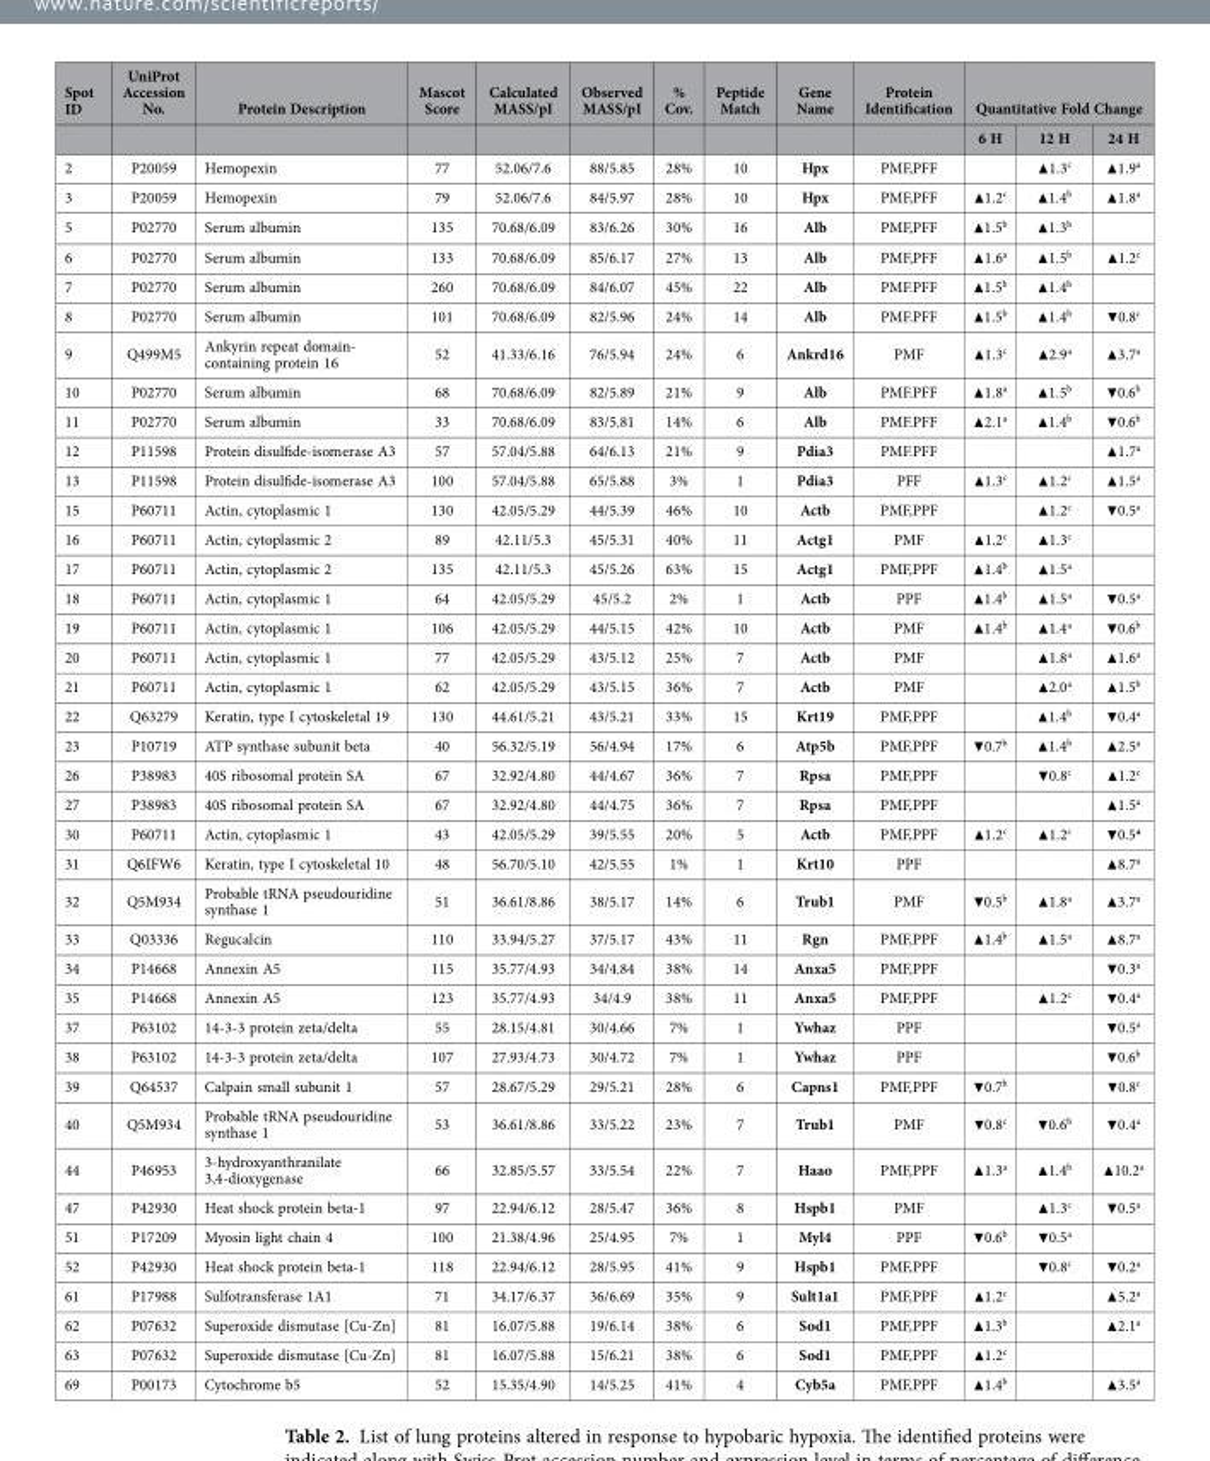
<table><thead><tr><td rowspan="2">Spot ID</td><td rowspan="2">UniProt Accession No.</td><td rowspan="2">Protein Description</td><td rowspan="2">Mascot Score</td><td rowspan="2">Calculated MASS/pI</td><td rowspan="2">Observed MASS/pI</td><td rowspan="2">% Cov.</td><td rowspan="2">Peptide Match</td><td rowspan="2">Gene Name</td><td rowspan="2">Protein Identification</td><td colspan="3">Quantitative Fold Change</td></tr><tr><td>6 H</td><td>12 H</td><td>24 H</td></tr></thead><tbody><tr><td>2</td><td>P20059</td><td>Hemopexin</td><td>77</td><td>52.06/7.6</td><td>88/5.85</td><td>28%</td><td>10</td><td>Hpx</td><td>PMF,PFF</td><td></td><td>▲1.3<sup>c</sup></td><td>▲1.9<sup>a</sup></td></tr><tr><td>3</td><td>P20059</td><td>Hemopexin</td><td>79</td><td>52.06/7.6</td><td>84/5.97</td><td>28%</td><td>10</td><td>Hpx</td><td>PMF,PFF</td><td>▲1.2<sup>c</sup></td><td>▲1.4<sup>b</sup></td><td>▲1.8<sup>a</sup></td></tr><tr><td>5</td><td>P02770</td><td>Serum albumin</td><td>135</td><td>70.68/6.09</td><td>83/6.26</td><td>30%</td><td>16</td><td>Alb</td><td>PMF,PFF</td><td>▲1.5<sup>b</sup></td><td>▲1.3<sup>b</sup></td><td></td></tr><tr><td>6</td><td>P02770</td><td>Serum albumin</td><td>133</td><td>70.68/6.09</td><td>85/6.17</td><td>27%</td><td>13</td><td>Alb</td><td>PMF,PFF</td><td>▲1.6<sup>a</sup></td><td>▲1.5<sup>b</sup></td><td>▲1.2<sup>c</sup></td></tr><tr><td>7</td><td>P02770</td><td>Serum albumin</td><td>260</td><td>70.68/6.09</td><td>84/6.07</td><td>45%</td><td>22</td><td>Alb</td><td>PMF.PFF</td><td>▲1.5<sup>b</sup></td><td>▲1.4<sup>b</sup></td><td></td></tr><tr><td>8</td><td>P02770</td><td>Serum albumin</td><td>101</td><td>70.68/6.09</td><td>82/5.96</td><td>24%</td><td>14</td><td>Alb</td><td>PMF.PFF</td><td>▲1.5<sup>b</sup></td><td>▲1.4<sup>b</sup></td><td>▼0.8<sup>c</sup></td></tr><tr><td>9</td><td>Q499M5</td><td>Ankyrin repeat domain- containing protein 16</td><td>52</td><td>41.33/6.16</td><td>76/5.94</td><td>24%</td><td>6</td><td>Ankrd16</td><td>PMF</td><td>▲1.3<sup>c</sup></td><td>▲2.9<sup>a</sup></td><td>▲3.7<sup>a</sup></td></tr><tr><td>10</td><td>P02770</td><td>Serum albumin</td><td>68</td><td>70.68/6.09</td><td>82/5.89</td><td>21%</td><td>9</td><td>Alb</td><td>PMF.PFF</td><td>▲1.8<sup>a</sup></td><td>▲1.5<sup>b</sup></td><td>▼0.6<sup>b</sup></td></tr><tr><td>11</td><td>P02770</td><td>Serum albumin</td><td>33</td><td>70.68/6.09</td><td>83/5.81</td><td>14%</td><td>6</td><td>Alb</td><td>PMF.PFF</td><td>▲2.1<sup>a</sup></td><td>▲1.4<sup>b</sup></td><td>▼0.6<sup>b</sup></td></tr><tr><td>12</td><td>P11598</td><td>Protein disulfide-isomerase A3</td><td>57</td><td>57.04/5.88</td><td>64/6.13</td><td>21%</td><td>9</td><td>Pdia3</td><td>PMF.PFF</td><td></td><td></td><td>▲1.7<sup>a</sup></td></tr><tr><td>13</td><td>P11598</td><td>Protein disulfide-isomerase A3</td><td>100</td><td>57.04/5.88</td><td>65/5.88</td><td>3%</td><td>1</td><td>Pdia3</td><td>PFF</td><td>▲1.3<sup>c</sup></td><td>▲1.2<sup>c</sup></td><td>▲1.5<sup>a</sup></td></tr><tr><td>15</td><td>P60711</td><td>Actin, cytoplasmic 1</td><td>130</td><td>42.05/5.29</td><td>44/5.39</td><td>46%</td><td>10</td><td>Actb</td><td>PMF,PPF</td><td></td><td>▲1.2<sup>c</sup></td><td>▼0.5<sup>a</sup></td></tr><tr><td>16</td><td>P60711</td><td>Actin, cytoplasmic 2</td><td>89</td><td>42.11/5.3</td><td>45/5.31</td><td>40%</td><td>11</td><td>Actg1</td><td>PMF</td><td>▲1.2<sup>c</sup></td><td>▲1.3<sup>c</sup></td><td></td></tr><tr><td>17</td><td>P60711</td><td>Actin, cytoplasmic 2</td><td>135</td><td>42.11/5.3</td><td>45/5.26</td><td>63%</td><td>15</td><td>Actg1</td><td>PMF,PPF</td><td>▲1.4<sup>b</sup></td><td>▲1.5<sup>a</sup></td><td></td></tr><tr><td>18</td><td>P60711</td><td>Actin, cytoplasmic 1</td><td>64</td><td>42.05/5.29</td><td>45/5.2</td><td>2%</td><td>1</td><td>Actb</td><td>PPF</td><td>▲1.4<sup>b</sup></td><td>▲1.5<sup>a</sup></td><td>▼0.5<sup>a</sup></td></tr><tr><td>19</td><td>P60711</td><td>Actin, cytoplasmic 1</td><td>106</td><td>42.05/5.29</td><td>44/5.15</td><td>42%</td><td>10</td><td>Actb</td><td>PMF</td><td>▲1.4<sup>b</sup></td><td>▲1.4<sup>a</sup></td><td>▼0.6<sup>b</sup></td></tr><tr><td>20</td><td>P60711</td><td>Actin, cytoplasmic 1</td><td>77</td><td>42.05/5.29</td><td>43/5.12</td><td>25%</td><td>7</td><td>Actb</td><td>PMF</td><td></td><td>▲1.8<sup>a</sup></td><td>▲1.6<sup>a</sup></td></tr><tr><td>21</td><td>P60711</td><td>Actin, cytoplasmic 1</td><td>62</td><td>42.05/5.29</td><td>43/5.15</td><td>36%</td><td>7</td><td>Actb</td><td>PMF</td><td></td><td>▲2.0<sup>a</sup></td><td>▲1.5<sup>b</sup></td></tr><tr><td>22</td><td>Q63279</td><td>Keratin, type I cytoskeletal 19</td><td>130</td><td>44.61/5.21</td><td>43/5.21</td><td>33%</td><td>15</td><td>Krt19</td><td>PMF,PPF</td><td></td><td>▲1.4<sup>b</sup></td><td>▼0.4<sup>a</sup></td></tr><tr><td>23</td><td>P10719</td><td>ATP synthase subunit beta</td><td>40</td><td>56.32/5.19</td><td>56/4.94</td><td>17%</td><td>6</td><td>Atp5b</td><td>PMF,PPF</td><td>▼0.7<sup>b</sup></td><td>▲1.4<sup>b</sup></td><td>▲2.5<sup>a</sup></td></tr><tr><td>26</td><td>P38983</td><td>40S ribosomal protein SA</td><td>67</td><td>32.92/4.80</td><td>44/4.67</td><td>36%</td><td>7</td><td>Rpsa</td><td>PMF,PPF</td><td></td><td>▼0.8<sup>c</sup></td><td>▲1.2<sup>c</sup></td></tr><tr><td>27</td><td>P38983</td><td>40S ribosomal protein SA</td><td>67</td><td>32.92/4.80</td><td>44/4.75</td><td>36%</td><td>7</td><td>Rpsa</td><td>PMF,PPF</td><td></td><td></td><td>▲1.5<sup>a</sup></td></tr><tr><td>30</td><td>P60711</td><td>Actin, cytoplasmic 1</td><td>43</td><td>42.05/5.29</td><td>39/5.55</td><td>20%</td><td>5</td><td>Actb</td><td>PMF,PPF</td><td>▲1.2<sup>c</sup></td><td>▲1.2<sup>c</sup></td><td>▼0.5<sup>a</sup></td></tr><tr><td>31</td><td>Q6IFW6</td><td>Keratin, type I cytoskeletal 10</td><td>48</td><td>56.70/5.10</td><td>42/5.55</td><td>1%</td><td>1</td><td>Krt10</td><td>PPF</td><td></td><td></td><td>▲8.7<sup>a</sup></td></tr><tr><td>32</td><td>Q5M934</td><td>Probable tRNA pseudouridine synthase 1</td><td>51</td><td>36.61/8.86</td><td>38/5.17</td><td>14%</td><td>6</td><td>Trub1</td><td>PMF</td><td>▼0.5<sup>b</sup></td><td>▲1.8<sup>a</sup></td><td>▲3.7<sup>a</sup></td></tr><tr><td>33</td><td>Q03336</td><td>Regucalcin</td><td>110</td><td>33.94/5.27</td><td>37/5.17</td><td>43%</td><td>11</td><td>Rgn</td><td>PMF,PPF</td><td>▲1.4<sup>b</sup></td><td>▲1.5<sup>a</sup></td><td>▲8.7<sup>a</sup></td></tr><tr><td>34</td><td>P14668</td><td>Annexin A5</td><td>115</td><td>35.77/4.93</td><td>34/4.84</td><td>38%</td><td>14</td><td>Anxa5</td><td>PMF,PPF</td><td></td><td></td><td>▼0.3<sup>a</sup></td></tr><tr><td>35</td><td>P14668</td><td>Annexin A5</td><td>123</td><td>35.77/4.93</td><td>34/4.9</td><td>38%</td><td>11</td><td>Anxa5</td><td>PMF,PPF</td><td></td><td>▲1.2<sup>c</sup></td><td>▼0.4<sup>a</sup></td></tr><tr><td>37</td><td>P63102</td><td>14-3-3 protein zeta/delta</td><td>55</td><td>28.15/4.81</td><td>30/4.66</td><td>7%</td><td>1</td><td>Ywhaz</td><td>PPF</td><td></td><td></td><td>▼0.5<sup>a</sup></td></tr><tr><td>38</td><td>P63102</td><td>14-3-3 protein zeta/delta</td><td>107</td><td>27.93/4.73</td><td>30/4.72</td><td>7%</td><td>1</td><td>Ywhaz</td><td>PPF</td><td></td><td></td><td>▼0.6<sup>b</sup></td></tr><tr><td>39</td><td>Q64537</td><td>Calpain small subunit 1</td><td>57</td><td>28.67/5.29</td><td>29/5.21</td><td>28%</td><td>6</td><td>Capns1</td><td>PMF,PPF</td><td>▼0.7<sup>b</sup></td><td></td><td>▼0.8<sup>c</sup></td></tr><tr><td>40</td><td>Q5M934</td><td>Probable tRNA pseudouridine synthase 1</td><td>53</td><td>36.61/8.86</td><td>33/5.22</td><td>23%</td><td>7</td><td>Trub1</td><td>PMF</td><td>▼0.8<sup>c</sup></td><td>▼0.6<sup>b</sup></td><td>▼0.4<sup>a</sup></td></tr><tr><td>44</td><td>P46953</td><td>3-hydroxyanthranilate 3,4-dioxygenase</td><td>66</td><td>32.85/5.57</td><td>33/5.54</td><td>22%</td><td>7</td><td>Haao</td><td>PMF,PPF</td><td>▲1.3<sup>a</sup></td><td>▲1.4<sup>b</sup></td><td>▲10.2<sup>a</sup></td></tr><tr><td>47</td><td>P42930</td><td>Heat shock protein beta-1</td><td>97</td><td>22.94/6.12</td><td>28/5.47</td><td>36%</td><td>8</td><td>Hspb1</td><td>PMF</td><td></td><td>▲1.3<sup>c</sup></td><td>▼0.5<sup>a</sup></td></tr><tr><td>51</td><td>P17209</td><td>Myosin light chain 4</td><td>100</td><td>21.38/4.96</td><td>25/4.95</td><td>7%</td><td>1</td><td>Myl4</td><td>PPF</td><td>▼0.6<sup>b</sup></td><td>▼0.5<sup>a</sup></td><td></td></tr><tr><td>52</td><td>P42930</td><td>Heat shock protein beta-1</td><td>118</td><td>22.94/6.12</td><td>28/5.95</td><td>41%</td><td>9</td><td>Hspb1</td><td>PMF,PPF</td><td></td><td>▼0.8<sup>c</sup></td><td>▼0.2<sup>a</sup></td></tr><tr><td>61</td><td>P17988</td><td>Sulfotransferase 1A1</td><td>71</td><td>34.17/6.37</td><td>36/6.69</td><td>35%</td><td>9</td><td>Sult1a1</td><td>PMF,PPF</td><td>▲1.2<sup>c</sup></td><td></td><td>▲5.2<sup>a</sup></td></tr><tr><td>62</td><td>P07632</td><td>Superoxide dismutase [Cu-Zn]</td><td>81</td><td>16.07/5.88</td><td>19/6.14</td><td>38%</td><td>6</td><td>Sod1</td><td>PMF,PPF</td><td>▲1.3<sup>b</sup></td><td></td><td>▲2.1<sup>a</sup></td></tr><tr><td>63</td><td>P07632</td><td>Superoxide dismutase [Cu-Zn]</td><td>81</td><td>16.07/5.88</td><td>15/6.21</td><td>38%</td><td>6</td><td>Sod1</td><td>PMF,PPF</td><td>▲1.2<sup>c</sup></td><td></td><td></td></tr><tr><td>69</td><td>P00173</td><td>Cytochrome b5</td><td>52</td><td>15.35/4.90</td><td>14/5.25</td><td>41%</td><td>4</td><td>Cyb5a</td><td>PMF,PPF</td><td>▲1.4<sup>b</sup></td><td></td><td>▲3.5<sup>a</sup></td></tr></tbody></table>